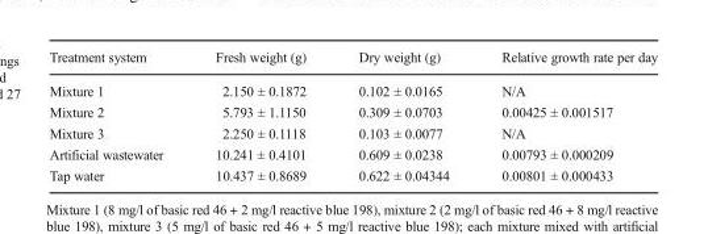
<table><thead><tr><td>Treatment system</td><td>Fresh weight (g)</td><td>Dry weight (g)</td><td>Relative growth rate per day</td></tr></thead><tbody><tr><td>Mixture 1</td><td>2.150 ± 0.1872</td><td>0.102 ± 0.0165</td><td>N/A</td></tr><tr><td>Mixture 2</td><td>5.793 ± 1.1150</td><td>0.309 ± 0.0703</td><td>0.00425 ± 0.001517</td></tr><tr><td>Mixture 3</td><td>2.250 ± 0.1118</td><td>0.103 ± 0.0077</td><td>N/A</td></tr><tr><td>Artificial wastewater</td><td>10.241 ± 0.4101</td><td>0.609 ± 0.0238</td><td>0.00793 ± 0.000209</td></tr><tr><td>Tap water</td><td>10.437 ± 0.8689</td><td>0.622 ± 0.04344</td><td>0.00801 ± 0.000433</td></tr></tbody></table>